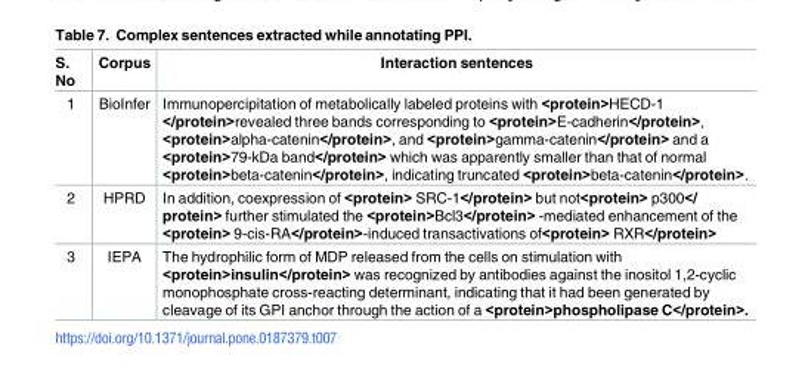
<table><thead><tr><td>S. No</td><td>Corpus</td><td>Interaction sentences</td></tr></thead><tbody><tr><td>1</td><td>BioInfer</td><td>Immunopercipitation of metabolically labeled proteins with &lt;protein&gt;HECD-1 &lt;/protein&gt;revealed three bands corresponding to &lt;protein&gt;E-cadherin&lt;/protein&gt;, &lt;protein&gt;alpha-catenin&lt;/protein&gt;, and &lt;protein&gt;gamma-catenin&lt;/protein&gt; and a &lt;protein&gt;79-kDa band&lt;/protein&gt; which was apparently smaller than that of normal &lt;protein&gt;beta-catenin&lt;/protein&gt;, indicating truncated &lt;protein&gt;beta-catenin&lt;/protein&gt;.</td></tr><tr><td>2</td><td>HPRD</td><td>In addition, coexpression of &lt;protein&gt; SRC-1&lt;/protein&gt; but not&lt;protein&gt; p300&lt;/ protein&gt; further stimulated the &lt;protein&gt;Bcl3&lt;/protein&gt; -mediated enhancement of the &lt;protein&gt; 9-cis-RA&lt;/protein&gt;-induced transactivations of&lt;protein&gt; RXR&lt;/protein&gt;</td></tr><tr><td>3</td><td>IEPA</td><td>The hydrophilic form of MDP released from the cells on stimulation with &lt;protein&gt;insulin&lt;/protein&gt; was recognized by antibodies against the inositol 1,2-cyclic monophosphate cross-reacting determinant, indicating that it had been generated by cleavage of its GPI anchor through the action of a &lt;protein&gt;phospholipase C&lt;/protein&gt;.</td></tr></tbody></table>